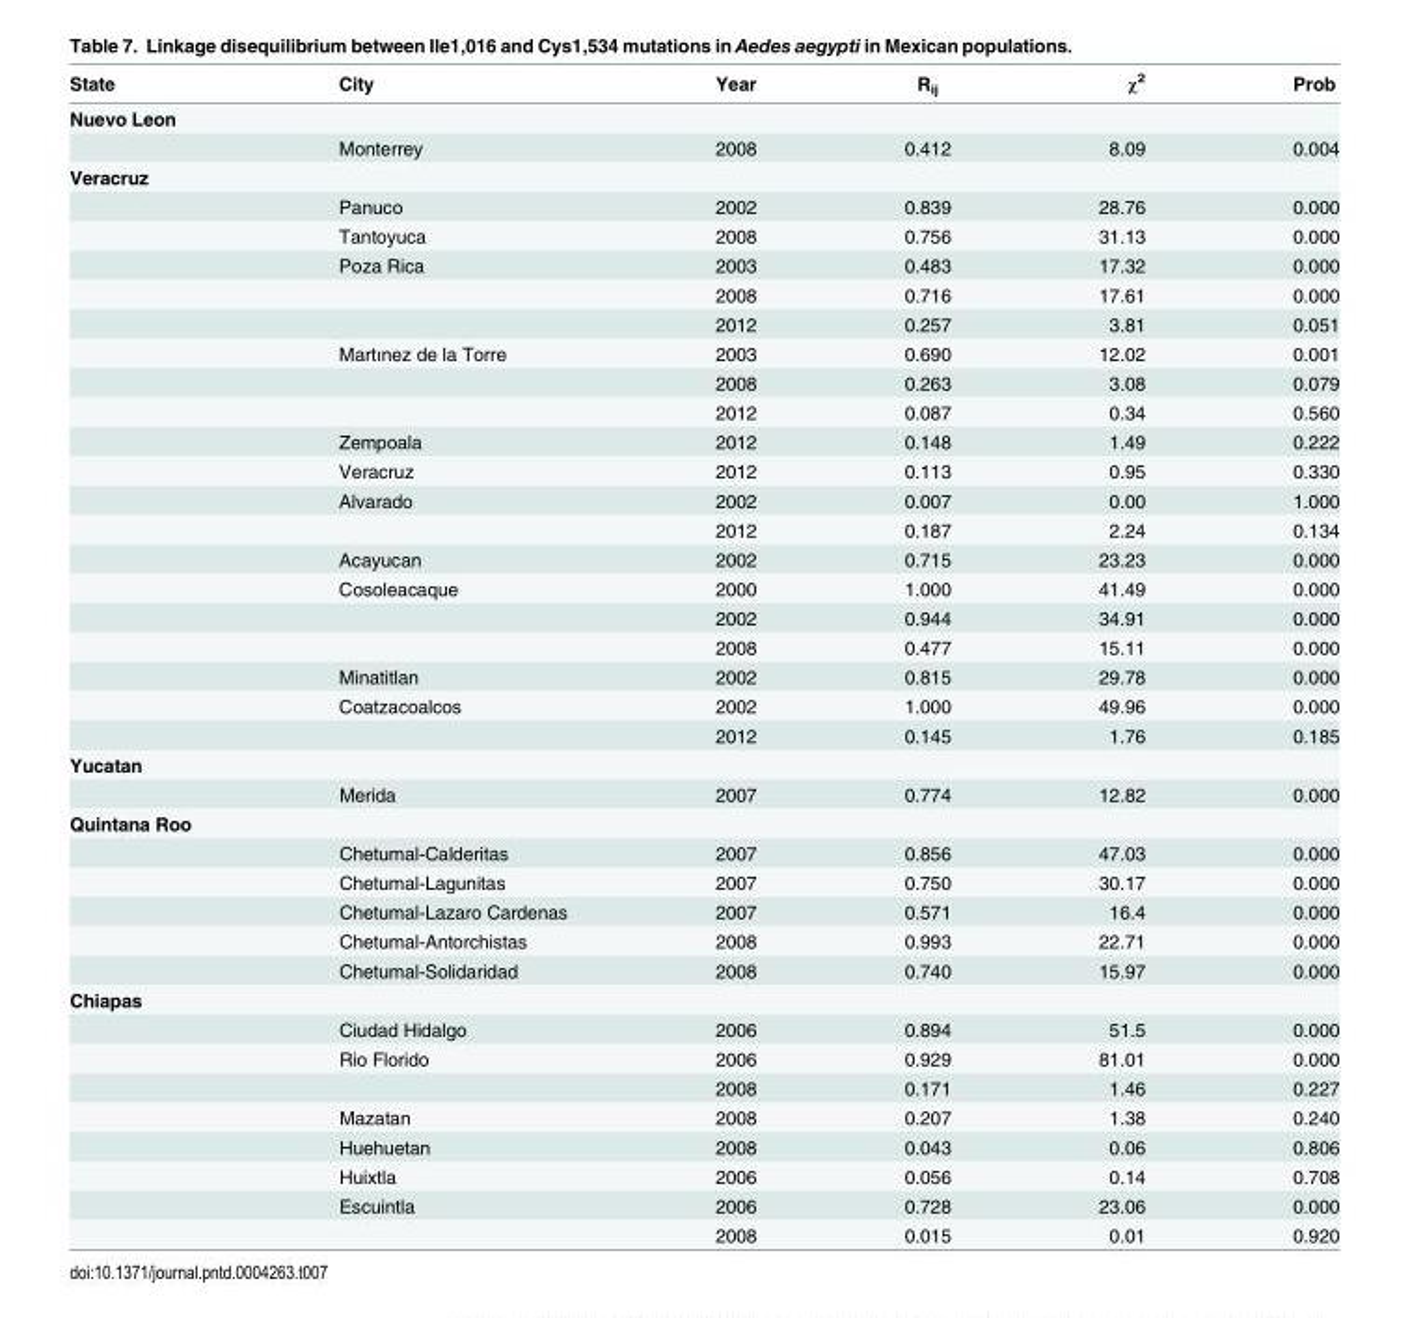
<table><thead><tr><td>State</td><td>City</td><td>Year</td><td>R<sub>ij</sub></td><td>χ<sup>2</sup></td><td>Prob</td></tr></thead><tbody><tr><td colspan="6">Nuevo Leon</td></tr><tr><td></td><td>Monterrey</td><td>2008</td><td>0.412</td><td>8.09</td><td>0.004</td></tr><tr><td colspan="6">Veracruz</td></tr><tr><td></td><td>Panuco</td><td>2002</td><td>0.839</td><td>28.76</td><td>0.000</td></tr><tr><td></td><td>Tantoyuca</td><td>2008</td><td>0.756</td><td>31.13</td><td>0.000</td></tr><tr><td></td><td>Poza Rica</td><td>2003</td><td>0.483</td><td>17.32</td><td>0.000</td></tr><tr><td></td><td></td><td>2008</td><td>0.716</td><td>17.61</td><td>0.000</td></tr><tr><td></td><td></td><td>2012</td><td>0.257</td><td>3.81</td><td>0.051</td></tr><tr><td></td><td>Martınez de la Torre</td><td>2003</td><td>0.690</td><td>12.02</td><td>0.001</td></tr><tr><td></td><td></td><td>2008</td><td>0.263</td><td>3.08</td><td>0.079</td></tr><tr><td></td><td></td><td>2012</td><td>0.087</td><td>0.34</td><td>0.560</td></tr><tr><td></td><td>Zempoala</td><td>2012</td><td>0.148</td><td>1.49</td><td>0.222</td></tr><tr><td></td><td>Veracruz</td><td>2012</td><td>0.113</td><td>0.95</td><td>0.330</td></tr><tr><td></td><td>Alvarado</td><td>2002</td><td>0.007</td><td>0.00</td><td>1.000</td></tr><tr><td></td><td></td><td>2012</td><td>0.187</td><td>2.24</td><td>0.134</td></tr><tr><td></td><td>Acayucan</td><td>2002</td><td>0.715</td><td>23.23</td><td>0.000</td></tr><tr><td></td><td>Cosoleacaque</td><td>2000</td><td>1.000</td><td>41.49</td><td>0.000</td></tr><tr><td></td><td></td><td>2002</td><td>0.944</td><td>34.91</td><td>0.000</td></tr><tr><td></td><td></td><td>2008</td><td>0.477</td><td>15.11</td><td>0.000</td></tr><tr><td></td><td>Minatitlan</td><td>2002</td><td>0.815</td><td>29.78</td><td>0.000</td></tr><tr><td></td><td>Coatzacoalcos</td><td>2002</td><td>1.000</td><td>49.96</td><td>0.000</td></tr><tr><td></td><td></td><td>2012</td><td>0.145</td><td>1.76</td><td>0.185</td></tr><tr><td colspan="6">Yucatan</td></tr><tr><td></td><td>Merida</td><td>2007</td><td>0.774</td><td>12.82</td><td>0.000</td></tr><tr><td colspan="6">Quintana Roo</td></tr><tr><td></td><td>Chetumal-Calderitas</td><td>2007</td><td>0.856</td><td>47.03</td><td>0.000</td></tr><tr><td></td><td>Chetumal-Lagunitas</td><td>2007</td><td>0.750</td><td>30.17</td><td>0.000</td></tr><tr><td></td><td>Chetumal-Lazaro Cardenas</td><td>2007</td><td>0.571</td><td>16.4</td><td>0.000</td></tr><tr><td></td><td>Chetumal-Antorchistas</td><td>2008</td><td>0.993</td><td>22.71</td><td>0.000</td></tr><tr><td></td><td>Chetumal-Solidaridad</td><td>2008</td><td>0.740</td><td>15.97</td><td>0.000</td></tr><tr><td colspan="6">Chiapas</td></tr><tr><td></td><td>Ciudad Hidalgo</td><td>2006</td><td>0.894</td><td>51.5</td><td>0.000</td></tr><tr><td></td><td>Rio Florido</td><td>2006</td><td>0.929</td><td>81.01</td><td>0.000</td></tr><tr><td></td><td></td><td>2008</td><td>0.171</td><td>1.46</td><td>0.227</td></tr><tr><td></td><td>Mazatan</td><td>2008</td><td>0.207</td><td>1.38</td><td>0.240</td></tr><tr><td></td><td>Huehuetan</td><td>2008</td><td>0.043</td><td>0.06</td><td>0.806</td></tr><tr><td></td><td>Huixtla</td><td>2006</td><td>0.056</td><td>0.14</td><td>0.708</td></tr><tr><td></td><td>Escuintla</td><td>2006</td><td>0.728</td><td>23.06</td><td>0.000</td></tr><tr><td></td><td></td><td>2008</td><td>0.015</td><td>0.01</td><td>0.920</td></tr></tbody></table>